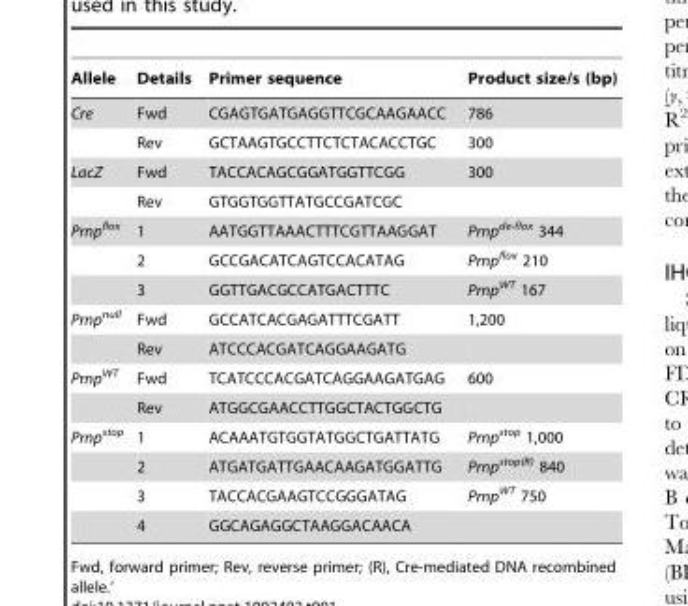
<table><thead><tr><td>Allele</td><td>Details</td><td>Primer sequence</td><td>Product size/s (bp)</td></tr></thead><tbody><tr><td rowspan="2">Cre</td><td>Fwd</td><td>CGAGTGATGAGGTTCGCAAGAACC</td><td>786</td></tr><tr><td>Rev</td><td>GCTAAGTGCCTTCTCTACACCTGC</td><td>300</td></tr><tr><td rowspan="2">LacZ</td><td>Fwd</td><td>TACCACAGCGGATGGTTCGG</td><td>300</td></tr><tr><td>Rev</td><td>GTGGTGGTTATGCCGATCGC</td><td></td></tr><tr><td rowspan="3">Prnp<sup>flox</sup></td><td>1</td><td>AATGGTTAAACTTTCGTTAAGGAT</td><td>Prnp<sup>de-flox</sup> 344</td></tr><tr><td>2</td><td>GCCGACATCAGTCCACATAG</td><td>Prnp<sup>flox</sup> 210</td></tr><tr><td>3</td><td>GGTTGACGCCATGACTTTC</td><td>Prnp<sup>WT</sup> 167</td></tr><tr><td rowspan="2">Prnp<sup>null</sup></td><td>Fwd</td><td>GCCATCACGAGATTTCGATT</td><td>1,200</td></tr><tr><td>Rev</td><td>ATCCCACGATCAGGAAGATG</td><td></td></tr><tr><td rowspan="2">Prnp<sup>WT</sup></td><td>Fwd</td><td>TCATCCCACGATCAGGAAGATGAG</td><td>600</td></tr><tr><td>Rev</td><td>ATGGCGAACCTTGGCTACTGGCTG</td><td></td></tr><tr><td rowspan="4">Prnp<sup>stop</sup></td><td>1</td><td>ACAAATGTGGTATGGCTGATTATG</td><td>Prnp<sup>stop</sup> 1,000</td></tr><tr><td>2</td><td>ATGATGATTGAACAAGATGGATTG</td><td>Prnp<sup>stop(R)</sup> 840</td></tr><tr><td>3</td><td>TACCACGAAGTCCGGGATAG</td><td>Prnp<sup>WT</sup> 750</td></tr><tr><td>4</td><td>GGCAGAGGCTAAGGACAACA</td><td></td></tr></tbody></table>